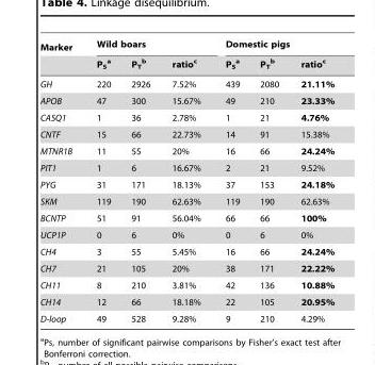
<table><thead><tr><td rowspan="2">Marker</td><td colspan="3">Wild boars</td><td colspan="3">Domestic pigs</td></tr><tr><td>P<sub>S</sub> a</td><td>P<sub>T</sub> b</td><td>ratio<sup>c</sup></td><td>P<sub>S</sub> a</td><td>P<sub>T</sub> b</td><td>ratio<sup>c</sup></td></tr></thead><tbody><tr><td>GH</td><td>220</td><td>2926</td><td>7.52%</td><td>439</td><td>2080</td><td>21.11%</td></tr><tr><td>APOB</td><td>47</td><td>300</td><td>15.67%</td><td>49</td><td>210</td><td>23.33%</td></tr><tr><td>CASQ1</td><td>1</td><td>36</td><td>2.78%</td><td>1</td><td>21</td><td>4.76%</td></tr><tr><td>CNTF</td><td>15</td><td>66</td><td>22.73%</td><td>14</td><td>91</td><td>15.38%</td></tr><tr><td>MTNR1B</td><td>11</td><td>55</td><td>20%</td><td>16</td><td>66</td><td>24.24%</td></tr><tr><td>PIT1</td><td>1</td><td>6</td><td>16.67%</td><td>2</td><td>21</td><td>9.52%</td></tr><tr><td>PYG</td><td>31</td><td>171</td><td>18.13%</td><td>37</td><td>153</td><td>24.18%</td></tr><tr><td>SKM</td><td>119</td><td>190</td><td>62.63%</td><td>119</td><td>190</td><td>62.63%</td></tr><tr><td>BCNTP</td><td>51</td><td>91</td><td>56.04%</td><td>66</td><td>66</td><td>100%</td></tr><tr><td>UCP1P</td><td>0</td><td>6</td><td>0%</td><td>0</td><td>6</td><td>0%</td></tr><tr><td>CH4</td><td>3</td><td>55</td><td>5.45%</td><td>16</td><td>66</td><td>24.24%</td></tr><tr><td>CH7</td><td>21</td><td>105</td><td>20%</td><td>38</td><td>171</td><td>22.22%</td></tr><tr><td>CH11</td><td>8</td><td>210</td><td>3.81%</td><td>42</td><td>136</td><td>10.88%</td></tr><tr><td>CH14</td><td>12</td><td>66</td><td>18.18%</td><td>22</td><td>105</td><td>20.95%</td></tr><tr><td>D-loop</td><td>49</td><td>528</td><td>9.28%</td><td>9</td><td>210</td><td>4.29%</td></tr></tbody></table>